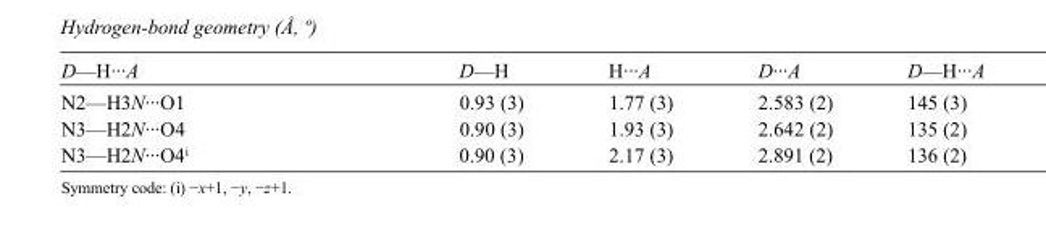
<table><tbody><tr><td>D—H···A</td><td>D—H</td><td>H···A</td><td>D···A</td><td>D—H···A</td></tr><tr><td>N2—H3N···O1</td><td>0.93 (3)</td><td>1.77 (3)</td><td>2.583 (2)</td><td>145 (3)</td></tr><tr><td>N3—H2N···O4</td><td>0.90 (3)</td><td>1.93 (3)</td><td>2.642 (2)</td><td>135 (2)</td></tr><tr><td>N3—H2N···O4<sup>i</sup></td><td>0.90 (3)</td><td>2.17 (3)</td><td>2.891 (2)</td><td>136 (2)</td></tr></tbody></table>